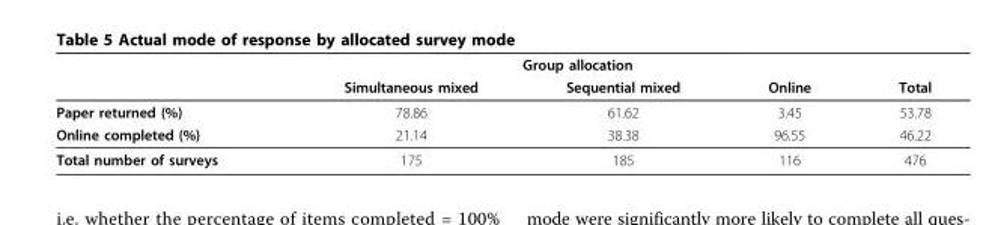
<table><thead><tr><td rowspan="2"></td><td colspan="3">Group allocation</td><td rowspan="2">Total</td></tr><tr><td>Simultaneous mixed</td><td>Sequential mixed</td><td>Online</td></tr></thead><tbody><tr><td>Paper returned (%)</td><td>78.86</td><td>61.62</td><td>3.45</td><td>53.78</td></tr><tr><td>Online completed (%)</td><td>21.14</td><td>38.38</td><td>96.55</td><td>46.22</td></tr><tr><td>Total number of surveys</td><td>175</td><td>185</td><td>116</td><td>476</td></tr></tbody></table>